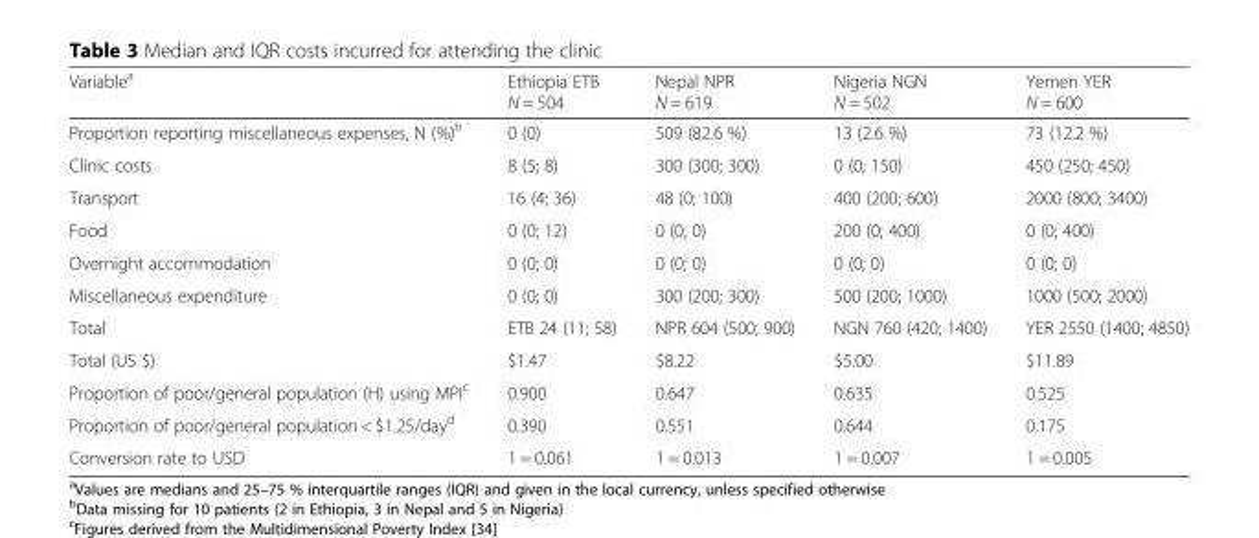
<table><thead><tr><td>Variable<sup>a</sup></td><td>Ethiopia ETB N = 504</td><td>Nepal NPR N = 619</td><td>Nigeria NGN N = 502</td><td>Yemen YER N = 600</td></tr></thead><tbody><tr><td>Proportion reporting miscellaneous expenses, N (%)<sup>b</sup></td><td>0 (0)</td><td>509 (82.6 %)</td><td>13 (2.6 %)</td><td>73 (12.2 %)</td></tr><tr><td>Clinic costs</td><td>8 (5; 8)</td><td>300 (300; 300)</td><td>0 (0; 150)</td><td>450 (250; 450)</td></tr><tr><td>Transport</td><td>16 (4; 36)</td><td>48 (0; 100)</td><td>400 (200; 600)</td><td>2000 (800; 3400)</td></tr><tr><td>Food</td><td>0 (0; 12)</td><td>0 (0; 0)</td><td>200 (0; 400)</td><td>0 (0; 400)</td></tr><tr><td>Overnight accommodation</td><td>0 (0; 0)</td><td>0 (0; 0)</td><td>0 (0; 0)</td><td>0 (0; 0)</td></tr><tr><td>Miscellaneous expenditure</td><td>0 (0; 0)</td><td>300 (200; 300)</td><td>500 (200; 1000)</td><td>1000 (500; 2000)</td></tr><tr><td>Total</td><td>ETB 24 (11; 58)</td><td>NPR 604 (500; 900)</td><td>NGN 760 (420; 1400)</td><td>YER 2550 (1400; 4850)</td></tr><tr><td>Total (US $)</td><td>$1.47</td><td>$8.22</td><td>$5.00</td><td>$11.89</td></tr><tr><td>Proportion of poor/general population (H) using MPI<sup>c</sup></td><td>0.900</td><td>0.647</td><td>0.635</td><td>0.525</td></tr><tr><td>Proportion of poor/general population &lt; $1.25/day<sup>d</sup></td><td>0.390</td><td>0.551</td><td>0.644</td><td>0.175</td></tr><tr><td>Conversion rate to USD</td><td>1 = 0.061</td><td>1 = 0.013</td><td>1 = 0.007</td><td>1 = 0.005</td></tr></tbody></table>